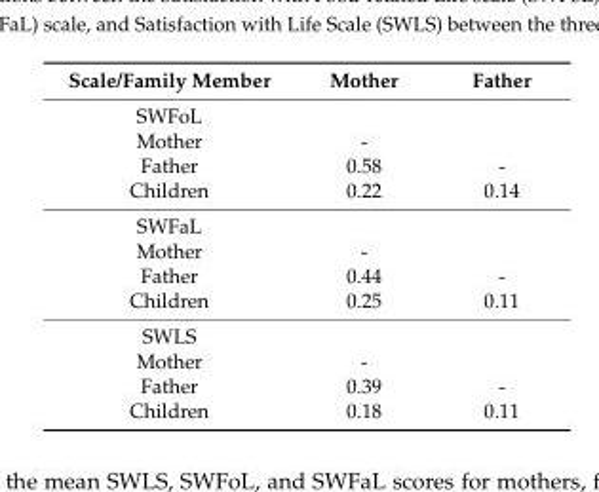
<table><thead><tr><td>Scale/Family Member</td><td>Mother</td><td>Father</td></tr></thead><tbody><tr><td colspan="3">SWFoL</td></tr><tr><td>Mother</td><td>-</td><td></td></tr><tr><td>Father</td><td>0.58</td><td>-</td></tr><tr><td>Children</td><td>0.22</td><td>0.14</td></tr><tr><td colspan="3">SWFaL</td></tr><tr><td>Mother</td><td>-</td><td></td></tr><tr><td>Father</td><td>0.44</td><td>-</td></tr><tr><td>Children</td><td>0.25</td><td>0.11</td></tr><tr><td colspan="3">SWLS</td></tr><tr><td>Mother</td><td>-</td><td></td></tr><tr><td>Father</td><td>0.39</td><td>-</td></tr><tr><td>Children</td><td>0.18</td><td>0.11</td></tr></tbody></table>